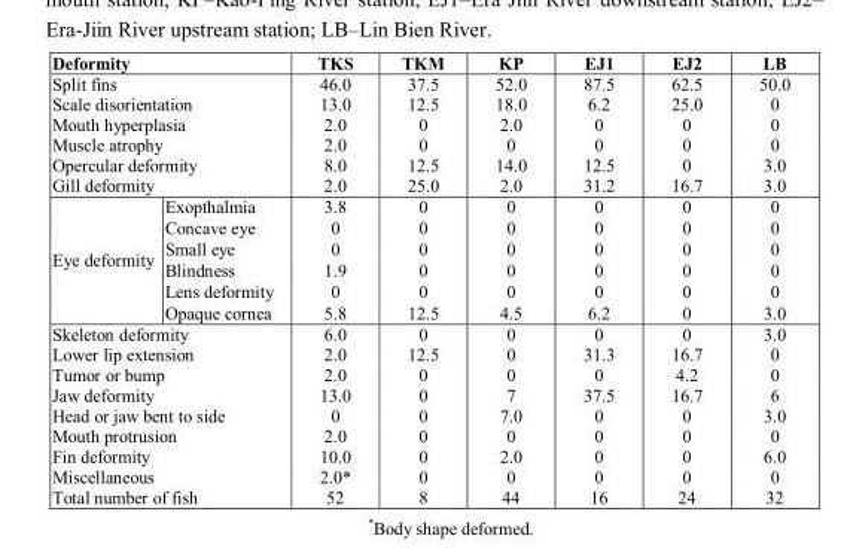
<table><thead><tr><td colspan="2">Deformity</td><td>TKS</td><td>TKM</td><td>KP</td><td>EJ1</td><td>EJ2</td><td>LB</td></tr></thead><tbody><tr><td colspan="2">Split fins</td><td>46.0</td><td>37.5</td><td>52.0</td><td>87.5</td><td>62.5</td><td>50.0</td></tr><tr><td colspan="2">Scale disorientation</td><td>13.0</td><td>12.5</td><td>18.0</td><td>6.2</td><td>25.0</td><td>0</td></tr><tr><td colspan="2">Mouth hyperplasia</td><td>2.0</td><td>0</td><td>2.0</td><td>0</td><td>0</td><td>0</td></tr><tr><td colspan="2">Muscle atrophy</td><td>2.0</td><td>0</td><td>0</td><td>0</td><td>0</td><td>0</td></tr><tr><td colspan="2">Opercular deformity</td><td>8.0</td><td>12.5</td><td>14.0</td><td>12.5</td><td>0</td><td>3.0</td></tr><tr><td colspan="2">Gill deformity</td><td>2.0</td><td>25.0</td><td>2.0</td><td>31.2</td><td>16.7</td><td>3.0</td></tr><tr><td rowspan="6">Eye deformity</td><td>Exopthalmia</td><td>3.8</td><td>0</td><td>0</td><td>0</td><td>0</td><td>0</td></tr><tr><td>Concave eye</td><td>0</td><td>0</td><td>0</td><td>0</td><td>0</td><td>0</td></tr><tr><td>Small eye</td><td>0</td><td>0</td><td>0</td><td>0</td><td>0</td><td>0</td></tr><tr><td>Blindness</td><td>1.9</td><td>0</td><td>0</td><td>0</td><td>0</td><td>0</td></tr><tr><td>Lens deformity</td><td>0</td><td>0</td><td>0</td><td>0</td><td>0</td><td>0</td></tr><tr><td>Opaque cornea</td><td>5.8</td><td>12.5</td><td>4.5</td><td>6.2</td><td>0</td><td>3.0</td></tr><tr><td colspan="2">Skeleton deformity</td><td>6.0</td><td>0</td><td>0</td><td>0</td><td>0</td><td>3.0</td></tr><tr><td colspan="2">Lower lip extension</td><td>2.0</td><td>12.5</td><td>0</td><td>31.3</td><td>16.7</td><td>0</td></tr><tr><td colspan="2">Tumor or bump</td><td>2.0</td><td>0</td><td>0</td><td>0</td><td>4.2</td><td>0</td></tr><tr><td colspan="2">Jaw deformity</td><td>13.0</td><td>0</td><td>7</td><td>37.5</td><td>16.7</td><td>6</td></tr><tr><td colspan="2">Head or jaw bent to side</td><td>0</td><td>0</td><td>7.0</td><td>0</td><td>0</td><td>3.0</td></tr><tr><td colspan="2">Mouth protrusion</td><td>2.0</td><td>0</td><td>0</td><td>0</td><td>0</td><td>0</td></tr><tr><td colspan="2">Fin deformity</td><td>10.0</td><td>0</td><td>2.0</td><td>0</td><td>0</td><td>6.0</td></tr><tr><td colspan="2">Miscellaneous</td><td>2.0*</td><td>0</td><td>0</td><td>0</td><td>0</td><td>0</td></tr><tr><td colspan="2">Total number of fish</td><td>52</td><td>8</td><td>44</td><td>16</td><td>24</td><td>32</td></tr></tbody></table>